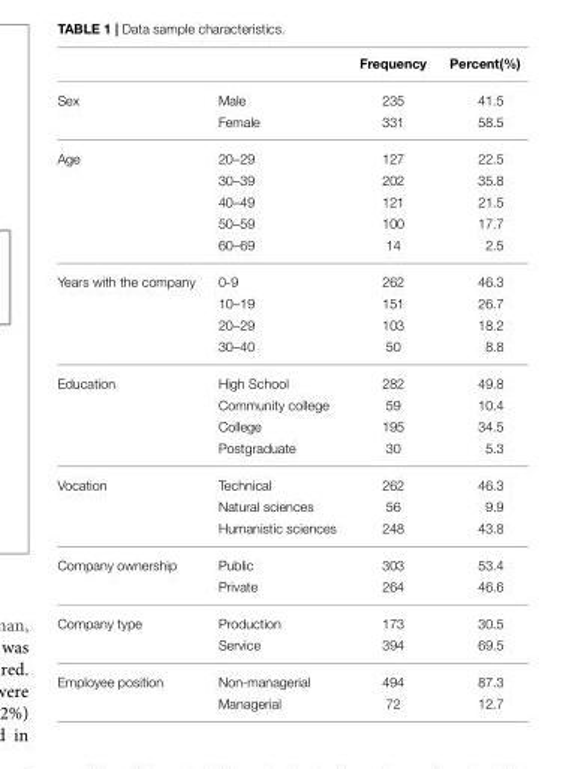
<table><thead><tr><td></td><td></td><td>Frequency</td><td>Percent(%)</td></tr></thead><tbody><tr><td rowspan="2">Sex</td><td>Male</td><td>235</td><td>41.5</td></tr><tr><td>Female</td><td>331</td><td>58.5</td></tr><tr><td rowspan="5">Age</td><td>20–29</td><td>127</td><td>22.5</td></tr><tr><td>30–39</td><td>202</td><td>35.8</td></tr><tr><td>40–49</td><td>121</td><td>21.5</td></tr><tr><td>50–59</td><td>100</td><td>17.7</td></tr><tr><td>60–69</td><td>14</td><td>2.5</td></tr><tr><td rowspan="4">Years with the company</td><td>0-9</td><td>262</td><td>46.3</td></tr><tr><td>10–19</td><td>151</td><td>26.7</td></tr><tr><td>20–29</td><td>103</td><td>18.2</td></tr><tr><td>30–40</td><td>50</td><td>8.8</td></tr><tr><td rowspan="4">Education</td><td>High School</td><td>282</td><td>49.8</td></tr><tr><td>Community college</td><td>59</td><td>10.4</td></tr><tr><td>College</td><td>195</td><td>34.5</td></tr><tr><td>Postgraduate</td><td>30</td><td>5.3</td></tr><tr><td rowspan="3">Vocation</td><td>Technical</td><td>262</td><td>46.3</td></tr><tr><td>Natural sciences</td><td>56</td><td>9.9</td></tr><tr><td>Humanistic sciences</td><td>248</td><td>43.8</td></tr><tr><td rowspan="2">Company ownership</td><td>Public</td><td>303</td><td>53.4</td></tr><tr><td>Private</td><td>264</td><td>46.6</td></tr><tr><td rowspan="2">Company type</td><td>Production</td><td>173</td><td>30.5</td></tr><tr><td>Service</td><td>394</td><td>69.5</td></tr><tr><td rowspan="2">Employee position</td><td>Non-managerial</td><td>494</td><td>87.3</td></tr><tr><td>Managerial</td><td>72</td><td>12.7</td></tr></tbody></table>